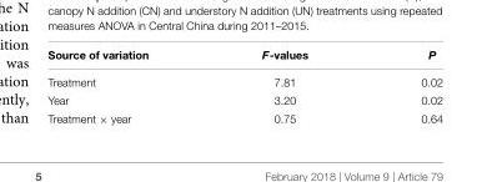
<table><thead><tr><td>Source of variation</td><td>F-values</td><td>P</td></tr></thead><tbody><tr><td>Treatment</td><td>7.81</td><td>0.02</td></tr><tr><td>Year</td><td>3.20</td><td>0.02</td></tr><tr><td>Treatment × year</td><td>0.75</td><td>0.64</td></tr></tbody></table>